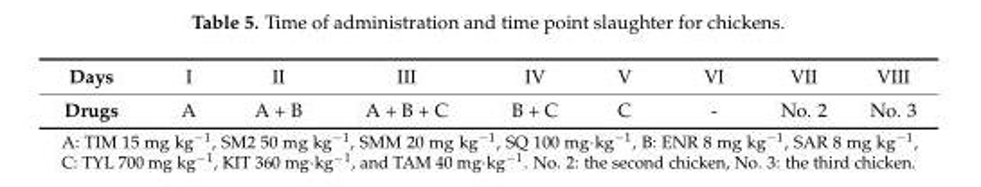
<table><tbody><tr><td>Days</td><td>I</td><td>II</td><td>III</td><td>IV</td><td>V</td><td>VI</td><td>VII</td><td>VIII</td></tr><tr><td>Drugs</td><td>A</td><td>A + B</td><td>A + B + C</td><td>B + C</td><td>C</td><td>-</td><td>No. 2</td><td>No. 3</td></tr></tbody></table>